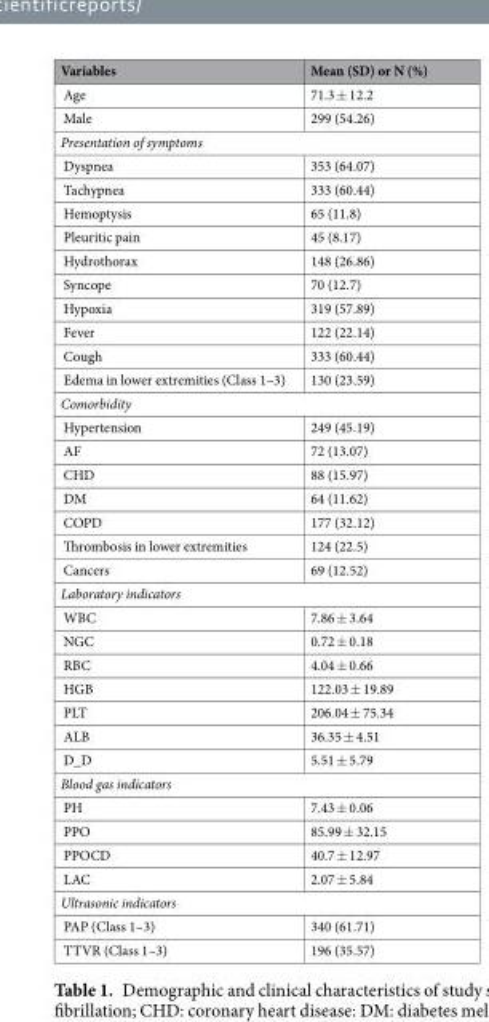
<table><thead><tr><td>Variables</td><td>Mean (SD) or N (%)</td></tr></thead><tbody><tr><td>Age</td><td>71.3 ± 12.2</td></tr><tr><td>Male</td><td>299 (54.26)</td></tr><tr><td colspan="2">Presentation of symptoms</td></tr><tr><td>Dyspnea</td><td>353 (64.07)</td></tr><tr><td>Tachypnea</td><td>333 (60.44)</td></tr><tr><td>Hemoptysis</td><td>65 (11.8)</td></tr><tr><td>Pleuritic pain</td><td>45 (8.17)</td></tr><tr><td>Hydrothorax</td><td>148 (26.86)</td></tr><tr><td>Syncope</td><td>70 (12.7)</td></tr><tr><td>Hypoxia</td><td>319 (57.89)</td></tr><tr><td>Fever</td><td>122 (22.14)</td></tr><tr><td>Cough</td><td>333 (60.44)</td></tr><tr><td>Edema in lower extremities (Class 1–3)</td><td>130 (23.59)</td></tr><tr><td colspan="2">Comorbidity</td></tr><tr><td>Hypertension</td><td>249 (45.19)</td></tr><tr><td>AF</td><td>72 (13.07)</td></tr><tr><td>CHD</td><td>88 (15.97)</td></tr><tr><td>DM</td><td>64 (11.62)</td></tr><tr><td>COPD</td><td>177 (32.12)</td></tr><tr><td>Thrombosis in lower extremities</td><td>124 (22.5)</td></tr><tr><td>Cancers</td><td>69 (12.52)</td></tr><tr><td colspan="2">Laboratory indicators</td></tr><tr><td>WBC</td><td>7.86 ± 3.64</td></tr><tr><td>NGC</td><td>0.72 ± 0.18</td></tr><tr><td>RBC</td><td>4.04 ± 0.66</td></tr><tr><td>HGB</td><td>122.03 ± 19.89</td></tr><tr><td>PLT</td><td>206.04 ± 75.34</td></tr><tr><td>ALB</td><td>36.35 ± 4.51</td></tr><tr><td>D_D</td><td>5.51 ± 5.79</td></tr><tr><td colspan="2">Blood gas indicators</td></tr><tr><td>PH</td><td>7.43 ± 0.06</td></tr><tr><td>PPO</td><td>85.99 ± 32.15</td></tr><tr><td>PPOCD</td><td>40.7 ± 12.97</td></tr><tr><td>LAC</td><td>2.07 ± 5.84</td></tr><tr><td colspan="2">Ultrasonic indicators</td></tr><tr><td>PAP (Class 1–3)</td><td>340 (61.71)</td></tr><tr><td>TTVR (Class 1–3)</td><td>196 (35.57)</td></tr></tbody></table>